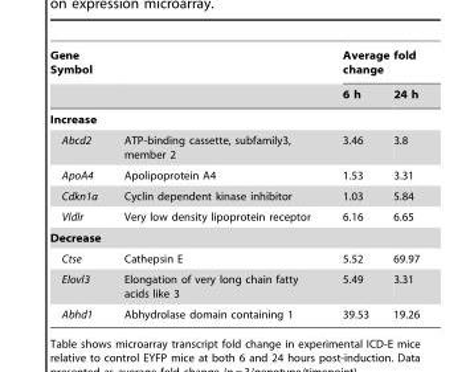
<table><thead><tr><td rowspan="2">Gene Symbol</td><td rowspan="2"></td><td colspan="2">Average fold change</td></tr><tr><td>6 h</td><td>24 h</td></tr></thead><tbody><tr><td colspan="4">Increase</td></tr><tr><td>Abcd2</td><td>ATP-binding cassette, subfamily3, member 2</td><td>3.46</td><td>3.8</td></tr><tr><td>ApoA4</td><td>Apolipoprotein A4</td><td>1.53</td><td>3.31</td></tr><tr><td>Cdkn1a</td><td>Cyclin dependent kinase inhibitor</td><td>1.03</td><td>5.84</td></tr><tr><td>Vldlr</td><td>Very low density lipoprotein receptor</td><td>6.16</td><td>6.65</td></tr><tr><td colspan="4">Decrease</td></tr><tr><td>Ctse</td><td>Cathepsin E</td><td>5.52</td><td>69.97</td></tr><tr><td>Elovl3</td><td>Elongation of very long chain fatty acids like 3</td><td>5.49</td><td>3.31</td></tr><tr><td>Abhd1</td><td>Abhydrolase domain containing 1</td><td>39.53</td><td>19.26</td></tr></tbody></table>